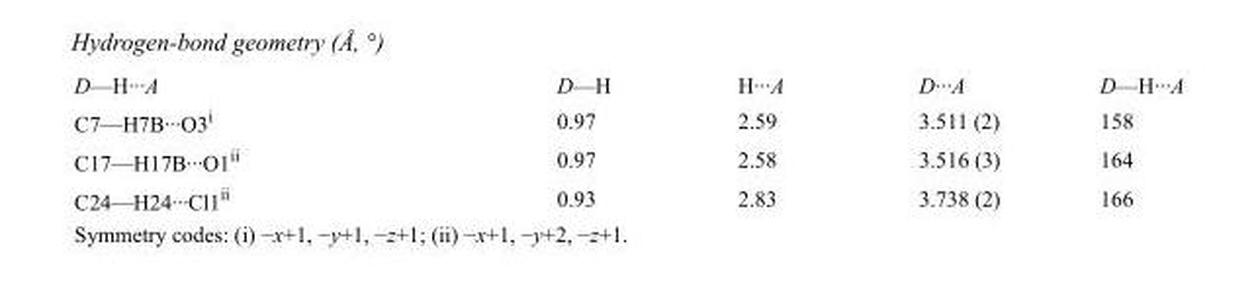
<table><tbody><tr><td>D—H···A</td><td>D—H</td><td>H···A</td><td>D···A</td><td>D—H···A</td></tr><tr><td>C7—H7B···O3<sup>i</sup></td><td>0.97</td><td>2.59</td><td>3.511 (2)</td><td>158</td></tr><tr><td>C17—H17B···O1<sup>ii</sup></td><td>0.97</td><td>2.58</td><td>3.516 (3)</td><td>164</td></tr><tr><td>C24—H24···Cl1<sup>ii</sup></td><td>0.93</td><td>2.83</td><td>3.738 (2)</td><td>166</td></tr></tbody></table>